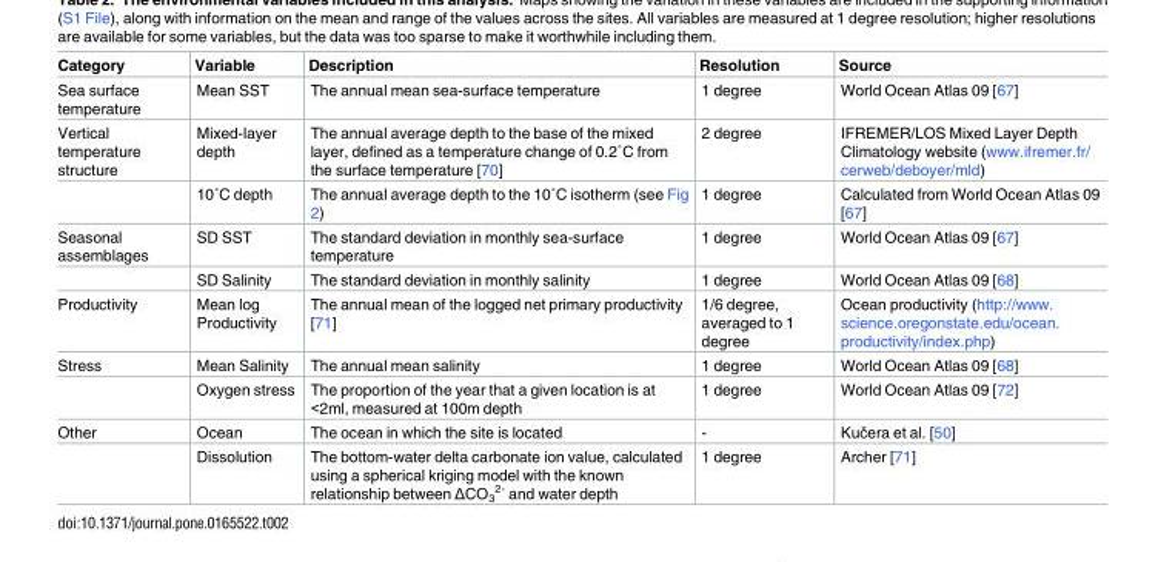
<table><thead><tr><td>Category</td><td>Variable</td><td>Description</td><td>Resolution</td><td>Source</td></tr></thead><tbody><tr><td>Sea surface temperature</td><td>Mean SST</td><td>The annual mean sea-surface temperature</td><td>1 degree</td><td>World Ocean Atlas 09 [67]</td></tr><tr><td rowspan="2">Vertical temperature structure</td><td>Mixed-layer depth</td><td>The annual average depth to the base of the mixed layer, defined as a temperature change of 0.2˚C from the surface temperature [70]</td><td>2 degree</td><td>IFREMER/LOS Mixed Layer Depth Climatology website (www.ifremer.fr/ cerweb/deboyer/mld)</td></tr><tr><td>10˚C depth</td><td>The annual average depth to the 10˚C isotherm (see Fig 2)</td><td>1 degree</td><td>Calculated from World Ocean Atlas 09 [67]</td></tr><tr><td rowspan="2">Seasonal assemblages</td><td>SD SST</td><td>The standard deviation in monthly sea-surface temperature</td><td>1 degree</td><td>World Ocean Atlas 09 [67]</td></tr><tr><td>SD Salinity</td><td>The standard deviation in monthly salinity</td><td>1 degree</td><td>World Ocean Atlas 09 [68]</td></tr><tr><td>Productivity</td><td>Mean log Productivity</td><td>The annual mean of the logged net primary productivity [71]</td><td>1/6 degree, averaged to 1 degree</td><td>Ocean productivity (http://www. science.oregonstate.edu/ocean. productivity/index.php)</td></tr><tr><td rowspan="2">Stress</td><td>Mean Salinity</td><td>The annual mean salinity</td><td>1 degree</td><td>World Ocean Atlas 09 [68]</td></tr><tr><td>Oxygen stress</td><td>The proportion of the year that a given location is at &lt;2ml, measured at 100m depth</td><td>1 degree</td><td>World Ocean Atlas 09 [72]</td></tr><tr><td rowspan="2">Other</td><td>Ocean</td><td>The ocean in which the site is located</td><td>-</td><td>Kučera et al. [50]</td></tr><tr><td>Dissolution</td><td>The bottom-water delta carbonate ion value, calculated using a spherical kriging model with the known relationship between ΔCO<sub>3</sub> <sup>2-</sup> and water depth</td><td>1 degree</td><td>Archer [71]</td></tr></tbody></table>